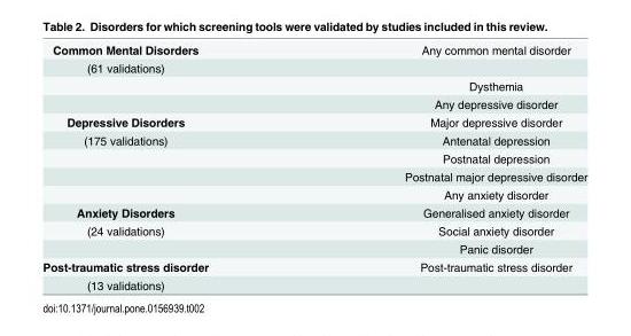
<table><tbody><tr><td>Common Mental Disorders</td><td>Any common mental disorder</td></tr><tr><td colspan="2">(61 validations)</td></tr><tr><td></td><td>Dysthemia</td></tr><tr><td></td><td>Any depressive disorder</td></tr><tr><td>Depressive Disorders</td><td>Major depressive disorder</td></tr><tr><td rowspan="4">(175 validations)</td><td>Antenatal depression</td></tr><tr><td>Postnatal depression</td></tr><tr><td>Postnatal major depressive disorder</td></tr><tr><td>Any anxiety disorder</td></tr><tr><td>Anxiety Disorders</td><td>Generalised anxiety disorder</td></tr><tr><td rowspan="2">(24 validations)</td><td>Social anxiety disorder</td></tr><tr><td>Panic disorder</td></tr><tr><td>Post-traumatic stress disorder</td><td>Post-traumatic stress disorder</td></tr><tr><td>(13 validations)</td><td></td></tr></tbody></table>